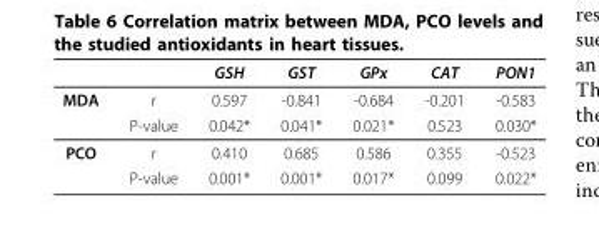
<table><thead><tr><td></td><td></td><td>GSH</td><td>GST</td><td>GPx</td><td>CAT</td><td>PON1</td></tr></thead><tbody><tr><td rowspan="2">MDA</td><td>r</td><td>0.597</td><td>-0.841</td><td>-0.684</td><td>-0.201</td><td>-0.583</td></tr><tr><td>P-value</td><td>0.042*</td><td>0.041*</td><td>0.021*</td><td>0.523</td><td>0.030*</td></tr><tr><td rowspan="2">PCO</td><td>r</td><td>0.410</td><td>0.685</td><td>0.586</td><td>0.355</td><td>-0.523</td></tr><tr><td>P-value</td><td>0.001*</td><td>0.001*</td><td>0.017*</td><td>0.099</td><td>0.022*</td></tr></tbody></table>